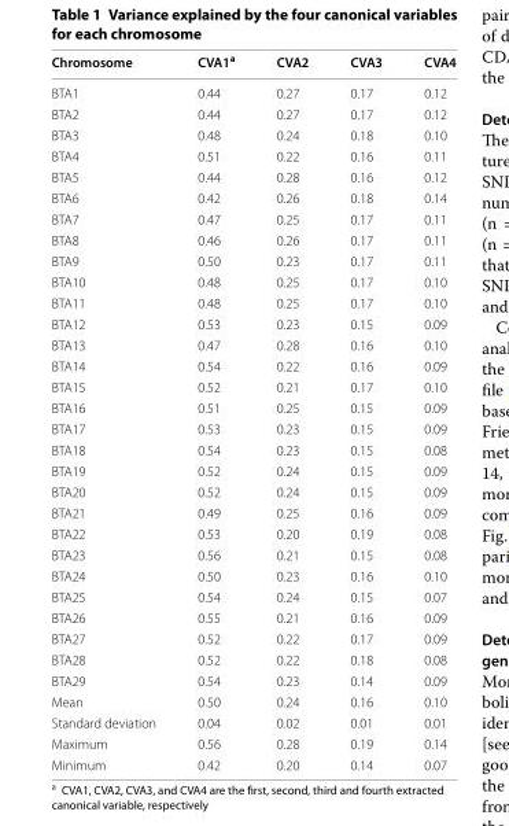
<table><thead><tr><td>Chromosome</td><td>CVA1<sup>a</sup></td><td>CVA2</td><td>CVA3</td><td>CVA4</td></tr></thead><tbody><tr><td>BTA1</td><td>0.44</td><td>0.27</td><td>0.17</td><td>0.12</td></tr><tr><td>BTA2</td><td>0.44</td><td>0.27</td><td>0.17</td><td>0.12</td></tr><tr><td>BTA3</td><td>0.48</td><td>0.24</td><td>0.18</td><td>0.10</td></tr><tr><td>BTA4</td><td>0.51</td><td>0.22</td><td>0.16</td><td>0.11</td></tr><tr><td>BTA5</td><td>0.44</td><td>0.28</td><td>0.16</td><td>0.12</td></tr><tr><td>BTA6</td><td>0.42</td><td>0.26</td><td>0.18</td><td>0.14</td></tr><tr><td>BTA7</td><td>0.47</td><td>0.25</td><td>0.17</td><td>0.11</td></tr><tr><td>BTA8</td><td>0.46</td><td>0.26</td><td>0.17</td><td>0.11</td></tr><tr><td>BTA9</td><td>0.50</td><td>0.23</td><td>0.17</td><td>0.11</td></tr><tr><td>BTA10</td><td>0.48</td><td>0.25</td><td>0.17</td><td>0.10</td></tr><tr><td>BTA11</td><td>0.48</td><td>0.25</td><td>0.17</td><td>0.10</td></tr><tr><td>BTA12</td><td>0.53</td><td>0.23</td><td>0.15</td><td>0.09</td></tr><tr><td>BTA13</td><td>0.47</td><td>0.28</td><td>0.16</td><td>0.10</td></tr><tr><td>BTA14</td><td>0.54</td><td>0.22</td><td>0.16</td><td>0.09</td></tr><tr><td>BTA15</td><td>0.52</td><td>0.21</td><td>0.17</td><td>0.10</td></tr><tr><td>BTA16</td><td>0.51</td><td>0.25</td><td>0.15</td><td>0.09</td></tr><tr><td>BTA17</td><td>0.53</td><td>0.23</td><td>0.15</td><td>0.09</td></tr><tr><td>BTA18</td><td>0.54</td><td>0.23</td><td>0.15</td><td>0.08</td></tr><tr><td>BTA19</td><td>0.52</td><td>0.24</td><td>0.15</td><td>0.09</td></tr><tr><td>BTA20</td><td>0.52</td><td>0.24</td><td>0.15</td><td>0.09</td></tr><tr><td>BTA21</td><td>0.49</td><td>0.25</td><td>0.16</td><td>0.09</td></tr><tr><td>BTA22</td><td>0.53</td><td>0.20</td><td>0.19</td><td>0.08</td></tr><tr><td>BTA23</td><td>0.56</td><td>0.21</td><td>0.15</td><td>0.08</td></tr><tr><td>BTA24</td><td>0.50</td><td>0.23</td><td>0.16</td><td>0.10</td></tr><tr><td>BTA25</td><td>0.54</td><td>0.24</td><td>0.15</td><td>0.07</td></tr><tr><td>BTA26</td><td>0.55</td><td>0.21</td><td>0.16</td><td>0.09</td></tr><tr><td>BTA27</td><td>0.52</td><td>0.22</td><td>0.17</td><td>0.09</td></tr><tr><td>BTA28</td><td>0.52</td><td>0.22</td><td>0.18</td><td>0.08</td></tr><tr><td>BTA29</td><td>0.54</td><td>0.23</td><td>0.14</td><td>0.09</td></tr><tr><td>Mean</td><td>0.50</td><td>0.24</td><td>0.16</td><td>0.10</td></tr><tr><td>Standard deviation</td><td>0.04</td><td>0.02</td><td>0.01</td><td>0.01</td></tr><tr><td>Maximum</td><td>0.56</td><td>0.28</td><td>0.19</td><td>0.14</td></tr><tr><td>Minimum</td><td>0.42</td><td>0.20</td><td>0.14</td><td>0.07</td></tr></tbody></table>